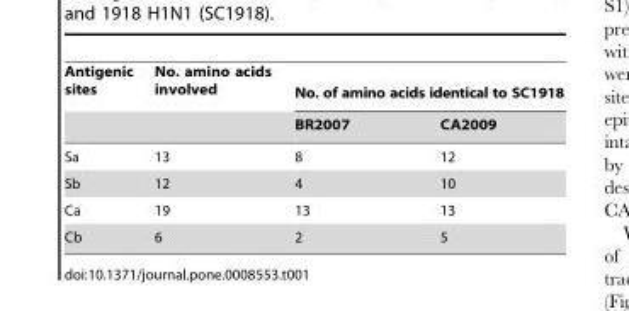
<table><thead><tr><td rowspan="2">Antigenic sites</td><td rowspan="2">No. amino acids involved</td><td colspan="2">No. of amino acids identical to SC1918</td></tr><tr><td>BR2007</td><td>CA2009</td></tr></thead><tbody><tr><td>Sa</td><td>13</td><td>8</td><td>12</td></tr><tr><td>Sb</td><td>12</td><td>4</td><td>10</td></tr><tr><td>Ca</td><td>19</td><td>13</td><td>13</td></tr><tr><td>Cb</td><td>6</td><td>2</td><td>5</td></tr></tbody></table>